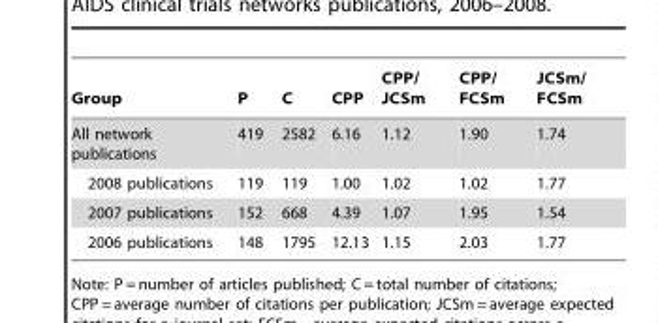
<table><thead><tr><td>Group</td><td>P</td><td>C</td><td>CPP</td><td>CPP/ JCSm</td><td>CPP/ FCSm</td><td>JCSm/ FCSm</td></tr></thead><tbody><tr><td>All network publications</td><td>419</td><td>2582</td><td>6.16</td><td>1.12</td><td>1.90</td><td>1.74</td></tr><tr><td>2008 publications</td><td>119</td><td>119</td><td>1.00</td><td>1.02</td><td>1.02</td><td>1.77</td></tr><tr><td>2007 publications</td><td>152</td><td>668</td><td>4.39</td><td>1.07</td><td>1.95</td><td>1.54</td></tr><tr><td>2006 publications</td><td>148</td><td>1795</td><td>12.13</td><td>1.15</td><td>2.03</td><td>1.77</td></tr></tbody></table>